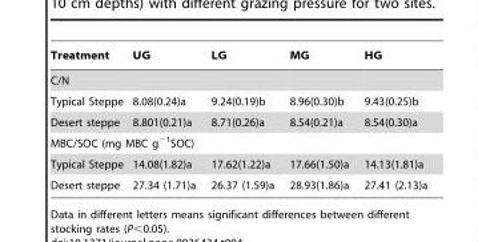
<table><thead><tr><td>Treatment</td><td>UG</td><td>LG</td><td>MG</td><td>HG</td></tr></thead><tbody><tr><td colspan="5">C/N</td></tr><tr><td>Typical Steppe</td><td>8.08(0.24)a</td><td>9.24(0.19)b</td><td>8.96(0.30)b</td><td>9.43(0.25)b</td></tr><tr><td>Desert steppe</td><td>8.801(0.21)a</td><td>8.71(0.26)a</td><td>8.54(0.21)a</td><td>8.54(0.30)a</td></tr><tr><td colspan="5">MBC/SOC (mg MBC g<sup>−1</sup>SOC)</td></tr><tr><td>Typical Steppe</td><td>14.08(1.82)a</td><td>17.62(1.22)a</td><td>17.66(1.50)a</td><td>14.13(1.81)a</td></tr><tr><td>Desert steppe</td><td>27.34 (1.71)a</td><td>26.37 (1.59)a</td><td>28.93(1.86)a</td><td>27.41 (2.13)a</td></tr></tbody></table>